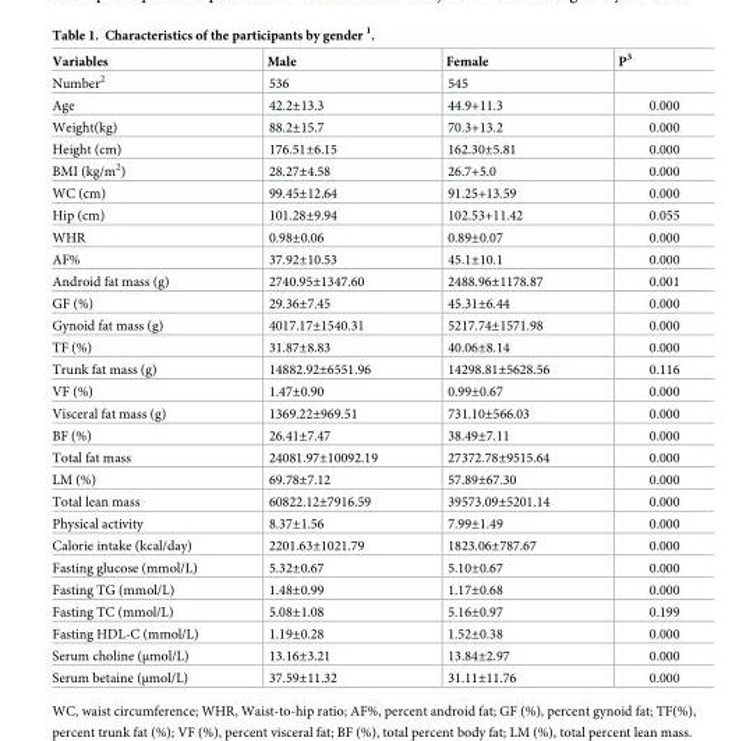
<table><thead><tr><td>Variables</td><td>Male</td><td>Female</td><td>P<sup>3</sup></td></tr></thead><tbody><tr><td>Number<sup>2</sup></td><td>536</td><td>545</td><td></td></tr><tr><td>Age</td><td>42.2±13.3</td><td>44.9+11.3</td><td>0.000</td></tr><tr><td>Weight(kg)</td><td>88.2±15.7</td><td>70.3+13.2</td><td>0.000</td></tr><tr><td>Height (cm)</td><td>176.51±6.15</td><td>162.30±5.81</td><td>0.000</td></tr><tr><td>BMI (kg/m<sup>2</sup>)</td><td>28.27±4.58</td><td>26.7+5.0</td><td>0.000</td></tr><tr><td>WC (cm)</td><td>99.45±12.64</td><td>91.25+13.59</td><td>0.000</td></tr><tr><td>Hip (cm)</td><td>101.28±9.94</td><td>102.53+11.42</td><td>0.055</td></tr><tr><td>WHR</td><td>0.98±0.06</td><td>0.89±0.07</td><td>0.000</td></tr><tr><td>AF%</td><td>37.92±10.53</td><td>45.1±10.1</td><td>0.000</td></tr><tr><td>Android fat mass (g)</td><td>2740.95±1347.60</td><td>2488.96±1178.87</td><td>0.001</td></tr><tr><td>GF (%)</td><td>29.36±7.45</td><td>45.31±6.44</td><td>0.000</td></tr><tr><td>Gynoid fat mass (g)</td><td>4017.17±1540.31</td><td>5217.74±1571.98</td><td>0.000</td></tr><tr><td>TF (%)</td><td>31.87±8.83</td><td>40.06±8.14</td><td>0.000</td></tr><tr><td>Trunk fat mass (g)</td><td>14882.92±6551.96</td><td>14298.81±5628.56</td><td>0.116</td></tr><tr><td>VF (%)</td><td>1.47±0.90</td><td>0.99±0.67</td><td>0.000</td></tr><tr><td>Visceral fat mass (g)</td><td>1369.22±969.51</td><td>731.10±566.03</td><td>0.000</td></tr><tr><td>BF (%)</td><td>26.41±7.47</td><td>38.49±7.11</td><td>0.000</td></tr><tr><td>Total fat mass</td><td>24081.97±10092.19</td><td>27372.78±9515.64</td><td>0.000</td></tr><tr><td>LM (%)</td><td>69.78±7.12</td><td>57.89±67.30</td><td>0.000</td></tr><tr><td>Total lean mass</td><td>60822.12±7916.59</td><td>39573.09±5201.14</td><td>0.000</td></tr><tr><td>Physical activity</td><td>8.37±1.56</td><td>7.99±1.49</td><td>0.000</td></tr><tr><td>Calorie intake (kcal/day)</td><td>2201.63±1021.79</td><td>1823.06±787.67</td><td>0.000</td></tr><tr><td>Fasting glucose (mmol/L)</td><td>5.32±0.67</td><td>5.10±0.67</td><td>0.000</td></tr><tr><td>Fasting TG (mmol/L)</td><td>1.48±0.99</td><td>1.17±0.68</td><td>0.000</td></tr><tr><td>Fasting TC (mmol/L)</td><td>5.08±1.08</td><td>5.16±0.97</td><td>0.199</td></tr><tr><td>Fasting HDL-C (mmol/L)</td><td>1.19±0.28</td><td>1.52±0.38</td><td>0.000</td></tr><tr><td>Serum choline (μmol/L)</td><td>13.16±3.21</td><td>13.84±2.97</td><td>0.000</td></tr><tr><td>Serum betaine (μmol/L)</td><td>37.59±11.32</td><td>31.11±11.76</td><td>0.000</td></tr></tbody></table>